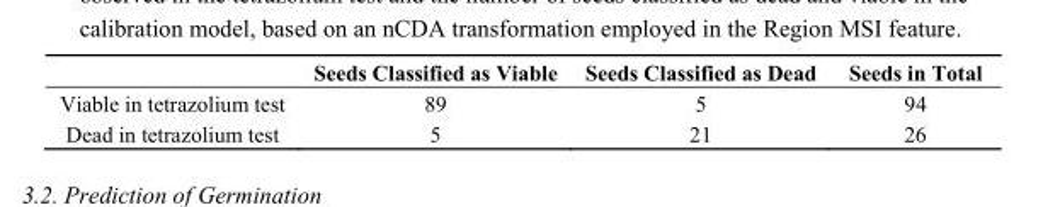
<table><thead><tr><td></td><td>Seeds Classified as Viable</td><td>Seeds Classified as Dead</td><td>Seeds in Total</td></tr></thead><tbody><tr><td>Viable in tetrazolium test</td><td>89</td><td>5</td><td>94</td></tr><tr><td>Dead in tetrazolium test</td><td>5</td><td>21</td><td>26</td></tr></tbody></table>